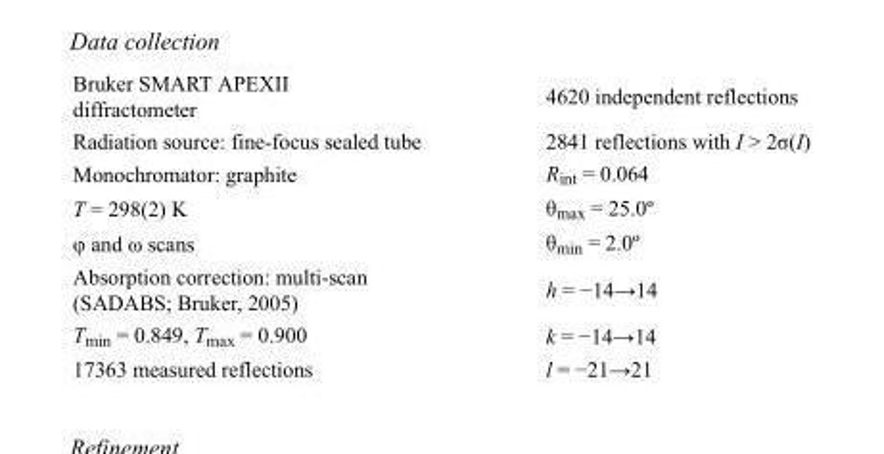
<table><tbody><tr><td>Bruker SMART APEXII diffractometer</td><td>4620 independent reflections</td></tr><tr><td>Radiation source: fine-focus sealed tube</td><td>2841 reflections with I &gt; 2σ(I)</td></tr><tr><td>Monochromator: graphite</td><td>R<sub>int</sub> = 0.064</td></tr><tr><td>T = 298(2) K</td><td>θ<sub>max</sub> = 25.0º</td></tr><tr><td>φ and ω scans</td><td>θ<sub>min</sub> = 2.0º</td></tr><tr><td>Absorption correction: multi-scan (SADABS; Bruker, 2005)</td><td>h = −14→14</td></tr><tr><td>T<sub>min</sub> = 0.849, T<sub>max</sub> = 0.900</td><td>k = −14→14</td></tr><tr><td>17363 measured reflections</td><td>l = −21→21</td></tr></tbody></table>